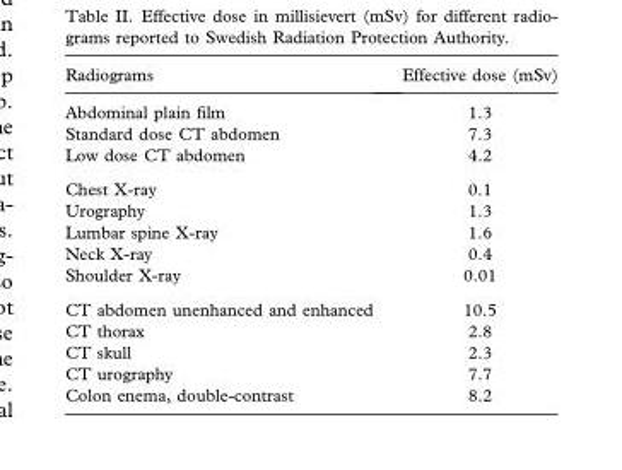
<table><thead><tr><td>Radiograms</td><td>Effective dose (mSv)</td></tr></thead><tbody><tr><td>Abdominal plain film</td><td>1.3</td></tr><tr><td>Standard dose CT abdomen</td><td>7.3</td></tr><tr><td>Low dose CT abdomen</td><td>4.2</td></tr><tr><td>Chest X-ray</td><td>0.1</td></tr><tr><td>Urography</td><td>1.3</td></tr><tr><td>Lumbar spine X-ray</td><td>1.6</td></tr><tr><td>Neck X-ray</td><td>0.4</td></tr><tr><td>Shoulder X-ray</td><td>0.01</td></tr><tr><td>CT abdomen unenhanced and enhanced</td><td>10.5</td></tr><tr><td>CT thorax</td><td>2.8</td></tr><tr><td>CT skull</td><td>2.3</td></tr><tr><td>CT urography</td><td>7.7</td></tr><tr><td>Colon enema, double-contrast</td><td>8.2</td></tr></tbody></table>